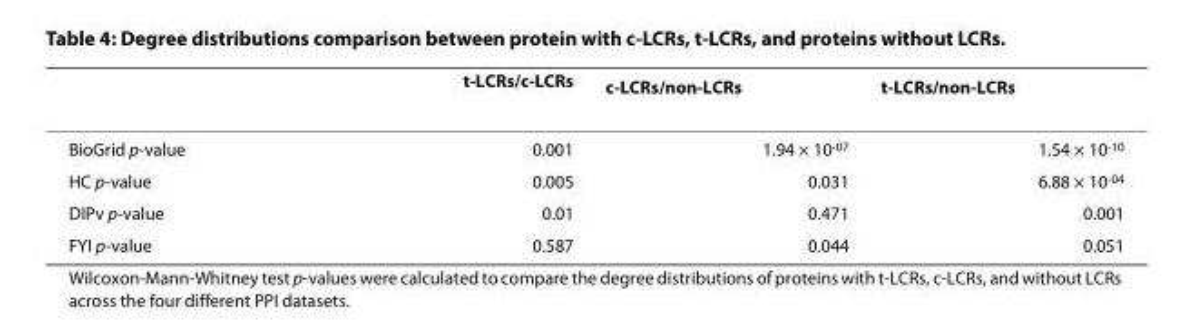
<table><thead><tr><td></td><td>t-LCRs/c-LCRs</td><td>c-LCRs/non-LCRs</td><td>t-LCRs/non-LCRs</td></tr></thead><tbody><tr><td>BioGrid p-value</td><td>0.001</td><td>1.94 × 10<sup>-07</sup></td><td>1.54 × 10<sup>-10</sup></td></tr><tr><td>HC p-value</td><td>0.005</td><td>0.031</td><td>6.88 × 10<sup>-04</sup></td></tr><tr><td>DIPv p-value</td><td>0.01</td><td>0.471</td><td>0.001</td></tr><tr><td>FYI p-value</td><td>0.587</td><td>0.044</td><td>0.051</td></tr></tbody></table>